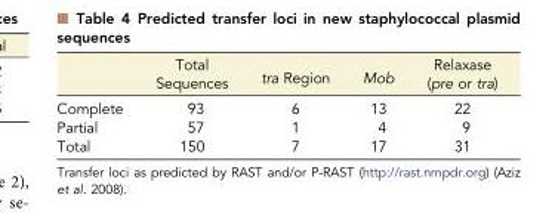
<table><thead><tr><td></td><td>Total Sequences</td><td>tra Region</td><td>Mob</td><td>Relaxase (pre or tra)</td></tr></thead><tbody><tr><td>Complete</td><td>93</td><td>6</td><td>13</td><td>22</td></tr><tr><td>Partial</td><td>57</td><td>1</td><td>4</td><td>9</td></tr><tr><td>Total</td><td>150</td><td>7</td><td>17</td><td>31</td></tr></tbody></table>